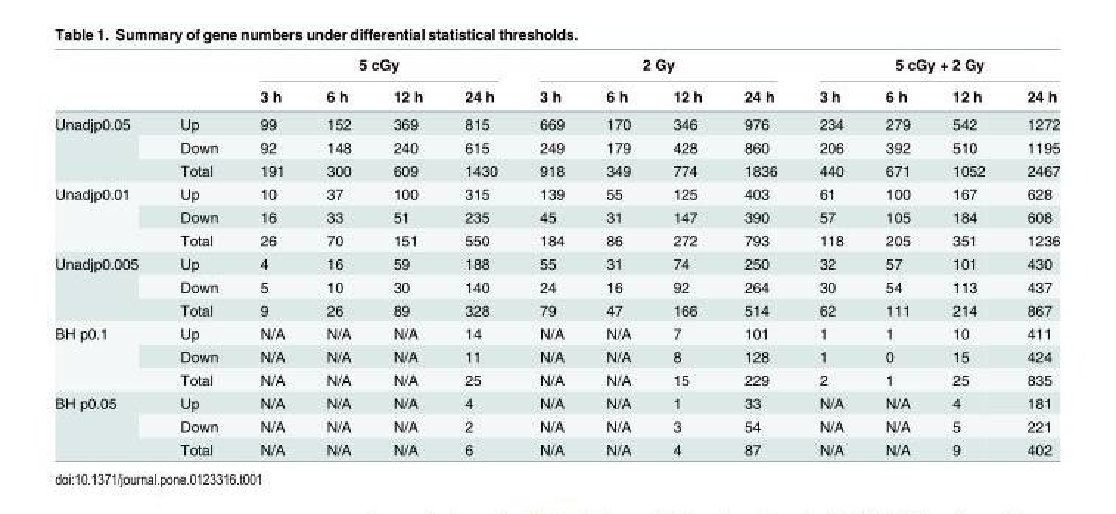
<table><thead><tr><td rowspan="2"></td><td rowspan="2"></td><td colspan="4">5 cGy</td><td colspan="4">2 Gy</td><td colspan="4">5 cGy + 2 Gy</td></tr><tr><td>3 h</td><td>6 h</td><td>12 h</td><td>24 h</td><td>3 h</td><td>6 h</td><td>12 h</td><td>24 h</td><td>3 h</td><td>6 h</td><td>12 h</td><td>24 h</td></tr></thead><tbody><tr><td rowspan="3">Unadjp0.05</td><td>Up</td><td>99</td><td>152</td><td>369</td><td>815</td><td>669</td><td>170</td><td>346</td><td>976</td><td>234</td><td>279</td><td>542</td><td>1272</td></tr><tr><td>Down</td><td>92</td><td>148</td><td>240</td><td>615</td><td>249</td><td>179</td><td>428</td><td>860</td><td>206</td><td>392</td><td>510</td><td>1195</td></tr><tr><td>Total</td><td>191</td><td>300</td><td>609</td><td>1430</td><td>918</td><td>349</td><td>774</td><td>1836</td><td>440</td><td>671</td><td>1052</td><td>2467</td></tr><tr><td rowspan="3">Unadjp0.01</td><td>Up</td><td>10</td><td>37</td><td>100</td><td>315</td><td>139</td><td>55</td><td>125</td><td>403</td><td>61</td><td>100</td><td>167</td><td>628</td></tr><tr><td>Down</td><td>16</td><td>33</td><td>51</td><td>235</td><td>45</td><td>31</td><td>147</td><td>390</td><td>57</td><td>105</td><td>184</td><td>608</td></tr><tr><td>Total</td><td>26</td><td>70</td><td>151</td><td>550</td><td>184</td><td>86</td><td>272</td><td>793</td><td>118</td><td>205</td><td>351</td><td>1236</td></tr><tr><td rowspan="3">Unadjp0.005</td><td>Up</td><td>4</td><td>16</td><td>59</td><td>188</td><td>55</td><td>31</td><td>74</td><td>250</td><td>32</td><td>57</td><td>101</td><td>430</td></tr><tr><td>Down</td><td>5</td><td>10</td><td>30</td><td>140</td><td>24</td><td>16</td><td>92</td><td>264</td><td>30</td><td>54</td><td>113</td><td>437</td></tr><tr><td>Total</td><td>9</td><td>26</td><td>89</td><td>328</td><td>79</td><td>47</td><td>166</td><td>514</td><td>62</td><td>111</td><td>214</td><td>867</td></tr><tr><td rowspan="3">BH p0.1</td><td>Up</td><td>N/A</td><td>N/A</td><td>N/A</td><td>14</td><td>N/A</td><td>N/A</td><td>7</td><td>101</td><td>1</td><td>1</td><td>10</td><td>411</td></tr><tr><td>Down</td><td>N/A</td><td>N/A</td><td>N/A</td><td>11</td><td>N/A</td><td>N/A</td><td>8</td><td>128</td><td>1</td><td>0</td><td>15</td><td>424</td></tr><tr><td>Total</td><td>N/A</td><td>N/A</td><td>N/A</td><td>25</td><td>N/A</td><td>N/A</td><td>15</td><td>229</td><td>2</td><td>1</td><td>25</td><td>835</td></tr><tr><td rowspan="3">BH p0.05</td><td>Up</td><td>N/A</td><td>N/A</td><td>N/A</td><td>4</td><td>N/A</td><td>N/A</td><td>1</td><td>33</td><td>N/A</td><td>N/A</td><td>4</td><td>181</td></tr><tr><td>Down</td><td>N/A</td><td>N/A</td><td>N/A</td><td>2</td><td>N/A</td><td>N/A</td><td>3</td><td>54</td><td>N/A</td><td>N/A</td><td>5</td><td>221</td></tr><tr><td>Total</td><td>N/A</td><td>N/A</td><td>N/A</td><td>6</td><td>N/A</td><td>N/A</td><td>4</td><td>87</td><td>N/A</td><td>N/A</td><td>9</td><td>402</td></tr></tbody></table>